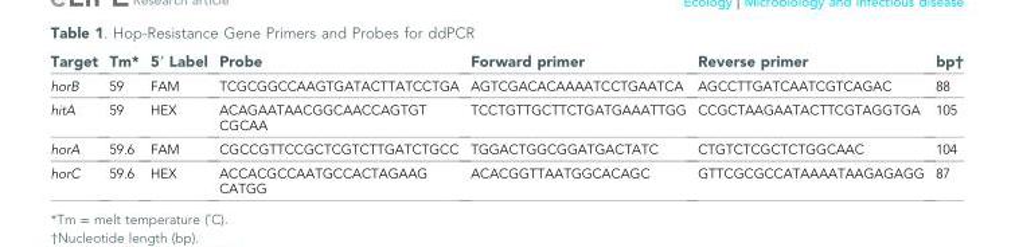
<table><thead><tr><td>Target</td><td>Tm*</td><td>5′ Label</td><td>Probe</td><td>Forward primer</td><td>Reverse primer</td><td>bp†</td></tr></thead><tbody><tr><td>horB</td><td>59</td><td>FAM</td><td>TCGCGGCCAAGTGATACTTATCCTGA</td><td>AGTCGACACAAAATCCTGAATCA</td><td>AGCCTTGATCAATCGTCAGAC</td><td>88</td></tr><tr><td>hitA</td><td>59</td><td>HEX</td><td>ACAGAATAACGGCAACCAGTGT CGCAA</td><td>TCCTGTTGCTTCTGATGAAATTGG</td><td>CCGCTAAGAATACTTCGTAGGTGA</td><td>105</td></tr><tr><td>horA</td><td>59.6</td><td>FAM</td><td>CGCCGTTCCGCTCGTCTTGATCTGCC</td><td>TGGACTGGCGGATGACTATC</td><td>CTGTCTCGCTCTGGCAAC</td><td>104</td></tr><tr><td>horC</td><td>59.6</td><td>HEX</td><td>ACCACGCCAATGCCACTAGAAG CATGG</td><td>ACACGGTTAATGGCACAGC</td><td>GTTCGCGCCATAAAATAAGAGAGG</td><td>87</td></tr></tbody></table>